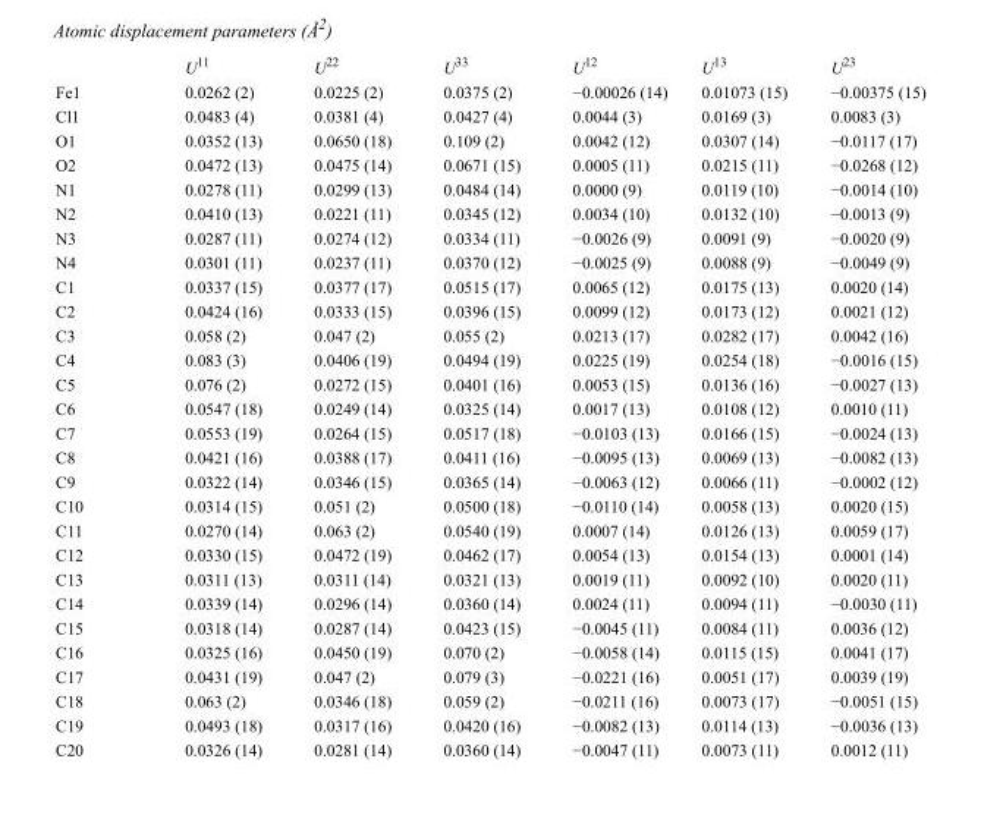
<table><thead><tr><td></td><td>U<sup>11</sup></td><td>U<sup>22</sup></td><td>U<sup>33</sup></td><td>U<sup>12</sup></td><td>U<sup>13</sup></td><td>U<sup>23</sup></td></tr></thead><tbody><tr><td>Fe1</td><td>0.0262 (2)</td><td>0.0225 (2)</td><td>0.0375 (2)</td><td>−0.00026 (14)</td><td>0.01073 (15)</td><td>−0.00375 (15)</td></tr><tr><td>Cl1</td><td>0.0483 (4)</td><td>0.0381 (4)</td><td>0.0427 (4)</td><td>0.0044 (3)</td><td>0.0169 (3)</td><td>0.0083 (3)</td></tr><tr><td>O1</td><td>0.0352 (13)</td><td>0.0650 (18)</td><td>0.109 (2)</td><td>0.0042 (12)</td><td>0.0307 (14)</td><td>−0.0117 (17)</td></tr><tr><td>O2</td><td>0.0472 (13)</td><td>0.0475 (14)</td><td>0.0671 (15)</td><td>0.0005 (11)</td><td>0.0215 (11)</td><td>−0.0268 (12)</td></tr><tr><td>N1</td><td>0.0278 (11)</td><td>0.0299 (13)</td><td>0.0484 (14)</td><td>0.0000 (9)</td><td>0.0119 (10)</td><td>−0.0014 (10)</td></tr><tr><td>N2</td><td>0.0410 (13)</td><td>0.0221 (11)</td><td>0.0345 (12)</td><td>0.0034 (10)</td><td>0.0132 (10)</td><td>−0.0013 (9)</td></tr><tr><td>N3</td><td>0.0287 (11)</td><td>0.0274 (12)</td><td>0.0334 (11)</td><td>−0.0026 (9)</td><td>0.0091 (9)</td><td>−0.0020 (9)</td></tr><tr><td>N4</td><td>0.0301 (11)</td><td>0.0237 (11)</td><td>0.0370 (12)</td><td>−0.0025 (9)</td><td>0.0088 (9)</td><td>−0.0049 (9)</td></tr><tr><td>C1</td><td>0.0337 (15)</td><td>0.0377 (17)</td><td>0.0515 (17)</td><td>0.0065 (12)</td><td>0.0175 (13)</td><td>0.0020 (14)</td></tr><tr><td>C2</td><td>0.0424 (16)</td><td>0.0333 (15)</td><td>0.0396 (15)</td><td>0.0099 (12)</td><td>0.0173 (12)</td><td>0.0021 (12)</td></tr><tr><td>C3</td><td>0.058 (2)</td><td>0.047 (2)</td><td>0.055 (2)</td><td>0.0213 (17)</td><td>0.0282 (17)</td><td>0.0042 (16)</td></tr><tr><td>C4</td><td>0.083 (3)</td><td>0.0406 (19)</td><td>0.0494 (19)</td><td>0.0225 (19)</td><td>0.0254 (18)</td><td>−0.0016 (15)</td></tr><tr><td>C5</td><td>0.076 (2)</td><td>0.0272 (15)</td><td>0.0401 (16)</td><td>0.0053 (15)</td><td>0.0136 (16)</td><td>−0.0027 (13)</td></tr><tr><td>C6</td><td>0.0547 (18)</td><td>0.0249 (14)</td><td>0.0325 (14)</td><td>0.0017 (13)</td><td>0.0108 (12)</td><td>0.0010 (11)</td></tr><tr><td>C7</td><td>0.0553 (19)</td><td>0.0264 (15)</td><td>0.0517 (18)</td><td>−0.0103 (13)</td><td>0.0166 (15)</td><td>−0.0024 (13)</td></tr><tr><td>C8</td><td>0.0421 (16)</td><td>0.0388 (17)</td><td>0.0411 (16)</td><td>−0.0095 (13)</td><td>0.0069 (13)</td><td>−0.0082 (13)</td></tr><tr><td>C9</td><td>0.0322 (14)</td><td>0.0346 (15)</td><td>0.0365 (14)</td><td>−0.0063 (12)</td><td>0.0066 (11)</td><td>−0.0002 (12)</td></tr><tr><td>C10</td><td>0.0314 (15)</td><td>0.051 (2)</td><td>0.0500 (18)</td><td>−0.0110 (14)</td><td>0.0058 (13)</td><td>0.0020 (15)</td></tr><tr><td>C11</td><td>0.0270 (14)</td><td>0.063 (2)</td><td>0.0540 (19)</td><td>0.0007 (14)</td><td>0.0126 (13)</td><td>0.0059 (17)</td></tr><tr><td>C12</td><td>0.0330 (15)</td><td>0.0472 (19)</td><td>0.0462 (17)</td><td>0.0054 (13)</td><td>0.0154 (13)</td><td>0.0001 (14)</td></tr><tr><td>C13</td><td>0.0311 (13)</td><td>0.0311 (14)</td><td>0.0321 (13)</td><td>0.0019 (11)</td><td>0.0092 (10)</td><td>0.0020 (11)</td></tr><tr><td>C14</td><td>0.0339 (14)</td><td>0.0296 (14)</td><td>0.0360 (14)</td><td>0.0024 (11)</td><td>0.0094 (11)</td><td>−0.0030 (11)</td></tr><tr><td>C15</td><td>0.0318 (14)</td><td>0.0287 (14)</td><td>0.0423 (15)</td><td>−0.0045 (11)</td><td>0.0084 (11)</td><td>0.0036 (12)</td></tr><tr><td>C16</td><td>0.0325 (16)</td><td>0.0450 (19)</td><td>0.070 (2)</td><td>−0.0058 (14)</td><td>0.0115 (15)</td><td>0.0041 (17)</td></tr><tr><td>C17</td><td>0.0431 (19)</td><td>0.047 (2)</td><td>0.079 (3)</td><td>−0.0221 (16)</td><td>0.0051 (17)</td><td>0.0039 (19)</td></tr><tr><td>C18</td><td>0.063 (2)</td><td>0.0346 (18)</td><td>0.059 (2)</td><td>−0.0211 (16)</td><td>0.0073 (17)</td><td>−0.0051 (15)</td></tr><tr><td>C19</td><td>0.0493 (18)</td><td>0.0317 (16)</td><td>0.0420 (16)</td><td>−0.0082 (13)</td><td>0.0114 (13)</td><td>−0.0036 (13)</td></tr><tr><td>C20</td><td>0.0326 (14)</td><td>0.0281 (14)</td><td>0.0360 (14)</td><td>−0.0047 (11)</td><td>0.0073 (11)</td><td>0.0012 (11)</td></tr></tbody></table>